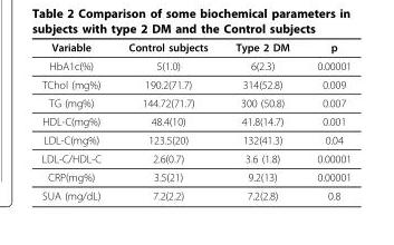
<table><thead><tr><td>Variable</td><td>Control subjects</td><td>Type 2 DM</td><td>p</td></tr></thead><tbody><tr><td>HbA1c(%)</td><td>5(1.0)</td><td>6(2.3)</td><td>0.00001</td></tr><tr><td>TChol (mg%)</td><td>190.2(71.7)</td><td>314(52.8)</td><td>0.009</td></tr><tr><td>TG (mg%)</td><td>144.72(71.7)</td><td>300 (50.8)</td><td>0.007</td></tr><tr><td>HDL-C(mg%)</td><td>48.4(10)</td><td>41.8(14.7)</td><td>0.001</td></tr><tr><td>LDL-C(mg%)</td><td>123.5(20)</td><td>132(41.3)</td><td>0.04</td></tr><tr><td>LDL-C/HDL-C</td><td>2.6(0.7)</td><td>3.6 (1.8)</td><td>0.00001</td></tr><tr><td>CRP(mg%)</td><td>3.5(21)</td><td>9.2(13)</td><td>0.00001</td></tr><tr><td>SUA (mg/dL)</td><td>7.2(2.2)</td><td>7.2(2.8)</td><td>0.8</td></tr></tbody></table>